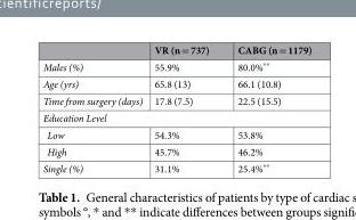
<table><thead><tr><td></td><td>VR (n = 737)</td><td>CABG (n = 1179)</td></tr></thead><tbody><tr><td>Males (%)</td><td>55.9%</td><td>80.0%**</td></tr><tr><td>Age (yrs)</td><td>65.8 (13)</td><td>66.1 (10.8)</td></tr><tr><td>Time from surgery (days)</td><td>17.8 (7.5)</td><td>22.5 (15.5)</td></tr><tr><td colspan="3">Education Level</td></tr><tr><td>Low</td><td>54.3%</td><td>53.8%</td></tr><tr><td>High</td><td>45.7%</td><td>46.2%</td></tr><tr><td>Single (%)</td><td>31.1%</td><td>25.4%**</td></tr></tbody></table>